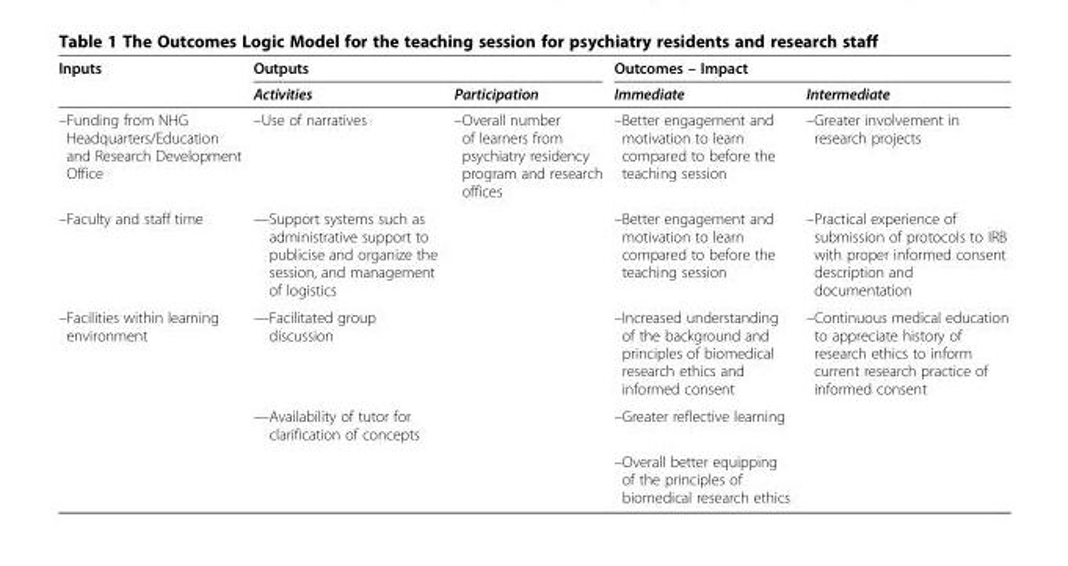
<table><thead><tr><td rowspan="2">Inputs</td><td colspan="2">Outputs</td><td colspan="2">Outcomes – Impact</td></tr><tr><td>Activities</td><td>Participation</td><td>Immediate</td><td>Intermediate</td></tr></thead><tbody><tr><td>–Funding from NHG Headquarters/Education and Research Development Office</td><td>–Use of narratives</td><td>–Overall number of learners from psychiatry residency program and research offices</td><td>–Better engagement and motivation to learn compared to before the teaching session</td><td>–Greater involvement in research projects</td></tr><tr><td>–Faculty and staff time</td><td>—Support systems such as administrative support to publicise and organize the session, and management of logistics</td><td></td><td>–Better engagement and motivation to learn compared to before the teaching session</td><td>–Practical experience of submission of protocols to IRB with proper informed consent description and documentation</td></tr><tr><td rowspan="3">–Facilities within learning environment</td><td>—Facilitated group discussion</td><td></td><td>–Increased understanding of the background and principles of biomedical research ethics and informed consent</td><td>–Continuous medical education to appreciate history of research ethics to inform current research practice of informed consent</td></tr><tr><td>—Availability of tutor for clarification of concepts</td><td></td><td>–Greater reflective learning</td><td></td></tr><tr><td></td><td></td><td>–Overall better equipping of the principles of biomedical research ethics</td><td></td></tr></tbody></table>